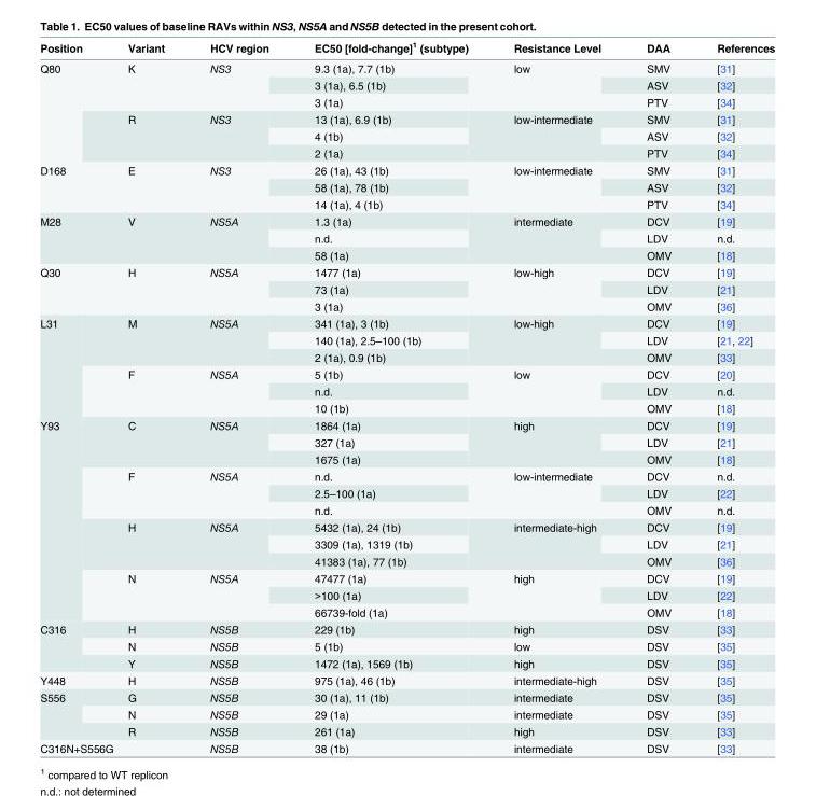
<table><thead><tr><td>Position</td><td>Variant</td><td>HCV region</td><td>EC50 [fold-change]<sup>1</sup> (subtype)</td><td>Resistance Level</td><td>DAA</td><td>References</td></tr></thead><tbody><tr><td rowspan="6">Q80</td><td rowspan="3">K</td><td rowspan="3">NS3</td><td>9.3 (1a), 7.7 (1b)</td><td rowspan="3">low</td><td>SMV</td><td>[31]</td></tr><tr><td>3 (1a), 6.5 (1b)</td><td>ASV</td><td>[32]</td></tr><tr><td>3 (1a)</td><td>PTV</td><td>[34]</td></tr><tr><td rowspan="3">R</td><td rowspan="3">NS3</td><td>13 (1a), 6.9 (1b)</td><td rowspan="3">low-intermediate</td><td>SMV</td><td>[31]</td></tr><tr><td>4 (1b)</td><td>ASV</td><td>[32]</td></tr><tr><td>2 (1a)</td><td>PTV</td><td>[34]</td></tr><tr><td rowspan="3">D168</td><td rowspan="3">E</td><td rowspan="3">NS3</td><td>26 (1a), 43 (1b)</td><td rowspan="3">low-intermediate</td><td>SMV</td><td>[31]</td></tr><tr><td>58 (1a), 78 (1b)</td><td>ASV</td><td>[32]</td></tr><tr><td>14 (1a), 4 (1b)</td><td>PTV</td><td>[34]</td></tr><tr><td rowspan="3">M28</td><td rowspan="3">V</td><td rowspan="3">NS5A</td><td>1.3 (1a)</td><td rowspan="3">intermediate</td><td>DCV</td><td>[19]</td></tr><tr><td>n.d.</td><td>LDV</td><td>n.d.</td></tr><tr><td>58 (1a)</td><td>OMV</td><td>[18]</td></tr><tr><td rowspan="3">Q30</td><td rowspan="3">H</td><td rowspan="3">NS5A</td><td>1477 (1a)</td><td rowspan="3">low-high</td><td>DCV</td><td>[19]</td></tr><tr><td>73 (1a)</td><td>LDV</td><td>[21]</td></tr><tr><td>3 (1a)</td><td>OMV</td><td>[36]</td></tr><tr><td rowspan="6">L31</td><td rowspan="3">M</td><td rowspan="3">NS5A</td><td>341 (1a), 3 (1b)</td><td rowspan="3">low-high</td><td>DCV</td><td>[19]</td></tr><tr><td>140 (1a), 2.5–100 (1b)</td><td>LDV</td><td>[21, 22]</td></tr><tr><td>2 (1a), 0.9 (1b)</td><td>OMV</td><td>[33]</td></tr><tr><td rowspan="3">F</td><td rowspan="3">NS5A</td><td>5 (1b)</td><td rowspan="3">low</td><td>DCV</td><td>[20]</td></tr><tr><td>n.d.</td><td>LDV</td><td>n.d.</td></tr><tr><td>10 (1b)</td><td>OMV</td><td>[18]</td></tr><tr><td rowspan="12">Y93</td><td rowspan="3">C</td><td rowspan="3">NS5A</td><td>1864 (1a)</td><td rowspan="3">high</td><td>DCV</td><td>[19]</td></tr><tr><td>327 (1a)</td><td>LDV</td><td>[21]</td></tr><tr><td>1675 (1a)</td><td>OMV</td><td>[18]</td></tr><tr><td rowspan="3">F</td><td rowspan="3">NS5A</td><td>n.d.</td><td rowspan="3">low-intermediate</td><td>DCV</td><td>n.d.</td></tr><tr><td>2.5–100 (1a)</td><td>LDV</td><td>[22]</td></tr><tr><td>n.d.</td><td>OMV</td><td>n.d.</td></tr><tr><td rowspan="3">H</td><td rowspan="3">NS5A</td><td>5432 (1a), 24 (1b)</td><td rowspan="3">intermediate-high</td><td>DCV</td><td>[19]</td></tr><tr><td>3309 (1a), 1319 (1b)</td><td>LDV</td><td>[21]</td></tr><tr><td>41383 (1a), 77 (1b)</td><td>OMV</td><td>[36]</td></tr><tr><td rowspan="3">N</td><td rowspan="3">NS5A</td><td>47477 (1a)</td><td rowspan="3">high</td><td>DCV</td><td>[19]</td></tr><tr><td>&gt;100 (1a)</td><td>LDV</td><td>[22]</td></tr><tr><td>66739-fold (1a)</td><td>OMV</td><td>[18]</td></tr><tr><td rowspan="3">C316</td><td>H</td><td>NS5B</td><td>229 (1b)</td><td>high</td><td>DSV</td><td>[33]</td></tr><tr><td>N</td><td>NS5B</td><td>5 (1b)</td><td>low</td><td>DSV</td><td>[35]</td></tr><tr><td>Y</td><td>NS5B</td><td>1472 (1a), 1569 (1b)</td><td>high</td><td>DSV</td><td>[35]</td></tr><tr><td>Y448</td><td>H</td><td>NS5B</td><td>975 (1a), 46 (1b)</td><td>intermediate-high</td><td>DSV</td><td>[35]</td></tr><tr><td rowspan="3">S556</td><td>G</td><td>NS5B</td><td>30 (1a), 11 (1b)</td><td>intermediate</td><td>DSV</td><td>[35]</td></tr><tr><td>N</td><td>NS5B</td><td>29 (1a)</td><td>intermediate</td><td>DSV</td><td>[35]</td></tr><tr><td>R</td><td>NS5B</td><td>261 (1a)</td><td>high</td><td>DSV</td><td>[33]</td></tr><tr><td colspan="2">C316N+S556G</td><td>NS5B</td><td>38 (1b)</td><td>intermediate</td><td>DSV</td><td>[33]</td></tr></tbody></table>